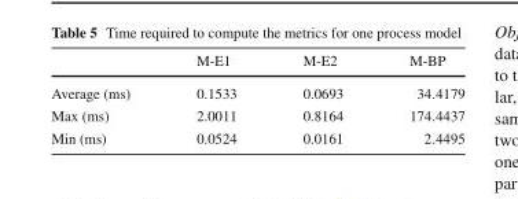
<table><thead><tr><td></td><td>M-E1</td><td>M-E2</td><td>M-BP</td></tr></thead><tbody><tr><td>Average (ms)</td><td>0.1533</td><td>0.0693</td><td>34.4179</td></tr><tr><td>Max (ms)</td><td>2.0011</td><td>0.8164</td><td>174.4437</td></tr><tr><td>Min (ms)</td><td>0.0524</td><td>0.0161</td><td>2.4495</td></tr></tbody></table>